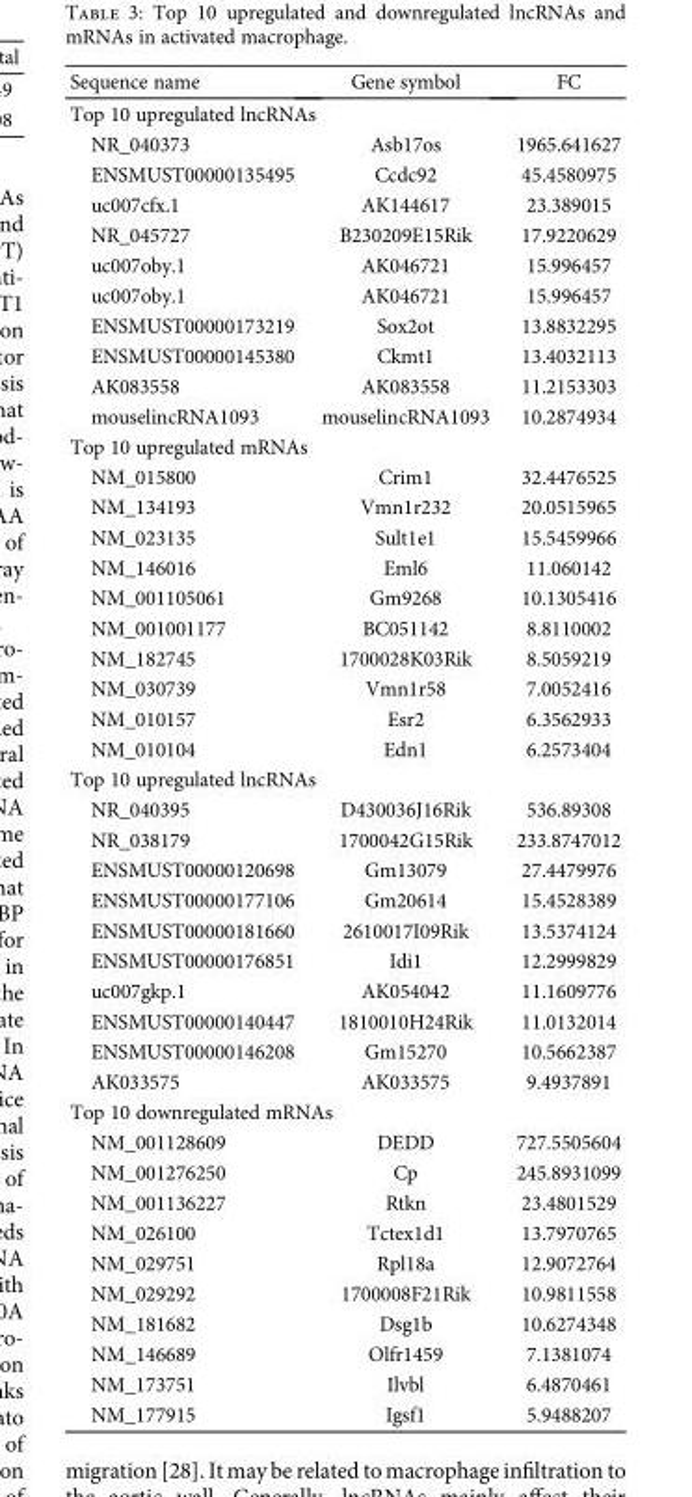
<table><thead><tr><td>Sequence name</td><td>Gene symbol</td><td>FC</td></tr></thead><tbody><tr><td colspan="3">Top 10 upregulated lncRNAs</td></tr><tr><td>NR_040373</td><td>Asb17os</td><td>1965.641627</td></tr><tr><td>ENSMUST00000135495</td><td>Ccdc92</td><td>45.4580975</td></tr><tr><td>uc007cfx.1</td><td>AK144617</td><td>23.389015</td></tr><tr><td>NR_045727</td><td>B230209E15Rik</td><td>17.9220629</td></tr><tr><td>uc007oby.1</td><td>AK046721</td><td>15.996457</td></tr><tr><td>uc007oby.1</td><td>AK046721</td><td>15.996457</td></tr><tr><td>ENSMUST00000173219</td><td>Sox2ot</td><td>13.8832295</td></tr><tr><td>ENSMUST00000145380</td><td>Ckmt1</td><td>13.4032113</td></tr><tr><td>AK083558</td><td>AK083558</td><td>11.2153303</td></tr><tr><td>mouselincRNA1093</td><td>mouselincRNA1093</td><td>10.2874934</td></tr><tr><td colspan="3">Top 10 upregulated mRNAs</td></tr><tr><td>NM_015800</td><td>Crim1</td><td>32.4476525</td></tr><tr><td>NM_134193</td><td>Vmn1r232</td><td>20.0515965</td></tr><tr><td>NM_023135</td><td>Sult1e1</td><td>15.5459966</td></tr><tr><td>NM_146016</td><td>Eml6</td><td>11.060142</td></tr><tr><td>NM_001105061</td><td>Gm9268</td><td>10.1305416</td></tr><tr><td>NM_001001177</td><td>BC051142</td><td>8.8110002</td></tr><tr><td>NM_182745</td><td>1700028K03Rik</td><td>8.5059219</td></tr><tr><td>NM_030739</td><td>Vmn1r58</td><td>7.0052416</td></tr><tr><td>NM_010157</td><td>Esr2</td><td>6.3562933</td></tr><tr><td>NM_010104</td><td>Edn1</td><td>6.2573404</td></tr><tr><td colspan="3">Top 10 upregulated lncRNAs</td></tr><tr><td>NR_040395</td><td>D430036J16Rik</td><td>536.89308</td></tr><tr><td>NR_038179</td><td>1700042G15Rik</td><td>233.8747012</td></tr><tr><td>ENSMUST00000120698</td><td>Gm13079</td><td>27.4479976</td></tr><tr><td>ENSMUST00000177106</td><td>Gm20614</td><td>15.4528389</td></tr><tr><td>ENSMUST00000181660</td><td>2610017I09Rik</td><td>13.5374124</td></tr><tr><td>ENSMUST00000176851</td><td>Idi1</td><td>12.2999829</td></tr><tr><td>uc007gkp.1</td><td>AK054042</td><td>11.1609776</td></tr><tr><td>ENSMUST00000140447</td><td>1810010H24Rik</td><td>11.0132014</td></tr><tr><td>ENSMUST00000146208</td><td>Gm15270</td><td>10.5662387</td></tr><tr><td>AK033575</td><td>AK033575</td><td>9.4937891</td></tr><tr><td colspan="3">Top 10 downregulated mRNAs</td></tr><tr><td>NM_001128609</td><td>DEDD</td><td>727.5505604</td></tr><tr><td>NM_001276250</td><td>Cp</td><td>245.8931099</td></tr><tr><td>NM_001136227</td><td>Rtkn</td><td>23.4801529</td></tr><tr><td>NM_026100</td><td>Tctex1d1</td><td>13.7970765</td></tr><tr><td>NM_029751</td><td>Rpl18a</td><td>12.9072764</td></tr><tr><td>NM_029292</td><td>1700008F21Rik</td><td>10.9811558</td></tr><tr><td>NM_181682</td><td>Dsg1b</td><td>10.6274348</td></tr><tr><td>NM_146689</td><td>Olfr1459</td><td>7.1381074</td></tr><tr><td>NM_173751</td><td>Ilvbl</td><td>6.4870461</td></tr><tr><td>NM_177915</td><td>Igsf1</td><td>5.9488207</td></tr></tbody></table>